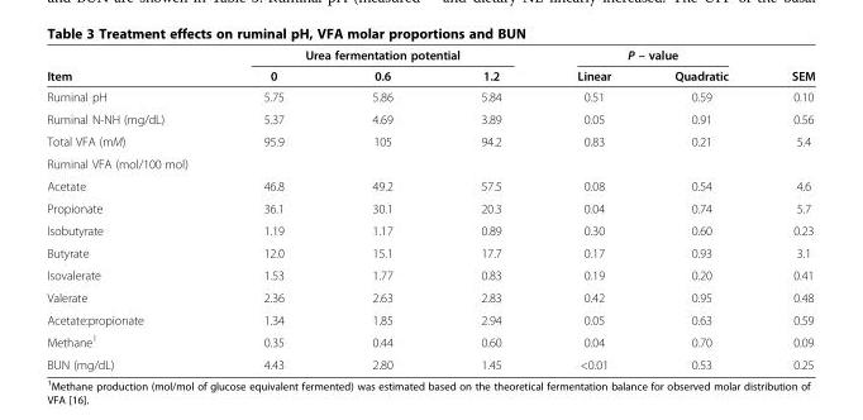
<table><thead><tr><td rowspan="2">Item</td><td colspan="3">Urea fermentation potential</td><td colspan="2">P – value</td><td rowspan="2">SEM</td></tr><tr><td>0</td><td>0.6</td><td>1.2</td><td>Linear</td><td>Quadratic</td></tr></thead><tbody><tr><td>Ruminal pH</td><td>5.75</td><td>5.86</td><td>5.84</td><td>0.51</td><td>0.59</td><td>0.10</td></tr><tr><td>Ruminal N-NH (mg/dL)</td><td>5.37</td><td>4.69</td><td>3.89</td><td>0.05</td><td>0.91</td><td>0.56</td></tr><tr><td>Total VFA (mM)</td><td>95.9</td><td>105</td><td>94.2</td><td>0.83</td><td>0.21</td><td>5.4</td></tr><tr><td colspan="7">Ruminal VFA (mol/100 mol)</td></tr><tr><td>Acetate</td><td>46.8</td><td>49.2</td><td>57.5</td><td>0.08</td><td>0.54</td><td>4.6</td></tr><tr><td>Propionate</td><td>36.1</td><td>30.1</td><td>20.3</td><td>0.04</td><td>0.74</td><td>5.7</td></tr><tr><td>Isobutyrate</td><td>1.19</td><td>1.17</td><td>0.89</td><td>0.30</td><td>0.60</td><td>0.23</td></tr><tr><td>Butyrate</td><td>12.0</td><td>15.1</td><td>17.7</td><td>0.17</td><td>0.93</td><td>3.1</td></tr><tr><td>Isovalerate</td><td>1.53</td><td>1.77</td><td>0.83</td><td>0.19</td><td>0.20</td><td>0.41</td></tr><tr><td>Valerate</td><td>2.36</td><td>2.63</td><td>2.83</td><td>0.42</td><td>0.95</td><td>0.48</td></tr><tr><td>Acetate:propionate</td><td>1.34</td><td>1.85</td><td>2.94</td><td>0.05</td><td>0.63</td><td>0.59</td></tr><tr><td>Methane<sup>1</sup></td><td>0.35</td><td>0.44</td><td>0.60</td><td>0.04</td><td>0.70</td><td>0.09</td></tr><tr><td>BUN (mg/dL)</td><td>4.43</td><td>2.80</td><td>1.45</td><td>&lt;0.01</td><td>0.53</td><td>0.25</td></tr></tbody></table>